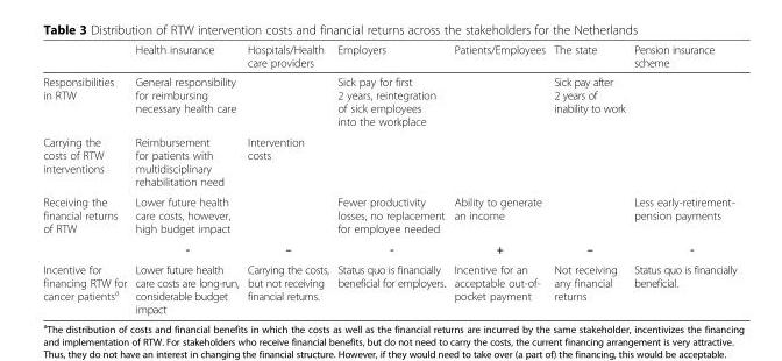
<table><thead><tr><td></td><td>Health insurance</td><td>Hospitals/Health care providers</td><td>Employers</td><td>Patients/Employees</td><td>The state</td><td>Pension insurance scheme</td></tr></thead><tbody><tr><td>Responsibilities in RTW</td><td>General responsibility for reimbursing necessary health care</td><td></td><td>Sick pay for first 2 years, reintegration of sick employees into the workplace</td><td></td><td>Sick pay after 2 years of inability to work</td><td></td></tr><tr><td>Carrying the costs of RTW interventions</td><td>Reimbursement for patients with multidisciplinary rehabilitation need</td><td>Intervention costs</td><td></td><td></td><td></td><td></td></tr><tr><td rowspan="2">Receiving the financial returns of RTW</td><td>Lower future health care costs, however, high budget impact</td><td></td><td>Fewer productivity losses, no replacement for employee needed</td><td>Ability to generate an income</td><td></td><td>Less early-retirement- pension payments</td></tr><tr><td>-</td><td>–</td><td>-</td><td>+</td><td>–</td><td>-</td></tr><tr><td>Incentive for financing RTW for cancer patients<sup>a</sup></td><td>Lower future health care costs are long-run, considerable budget impact</td><td>Carrying the costs, but not receiving financial returns.</td><td>Status quo is financially beneficial for employers.</td><td>Incentive for an acceptable out-of- pocket payment</td><td>Not receiving any financial returns</td><td>Status quo is financially beneficial.</td></tr></tbody></table>